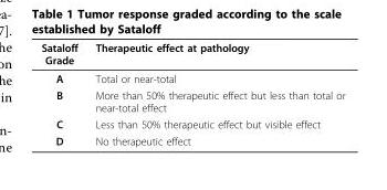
<table><thead><tr><td>Sataloff Grade</td><td>Therapeutic effect at pathology</td></tr></thead><tbody><tr><td>A</td><td>Total or near-total</td></tr><tr><td>B</td><td>More than 50% therapeutic effect but less than total or near-total effect</td></tr><tr><td>C</td><td>Less than 50% therapeutic effect but visible effect</td></tr><tr><td>D</td><td>No therapeutic effect</td></tr></tbody></table>